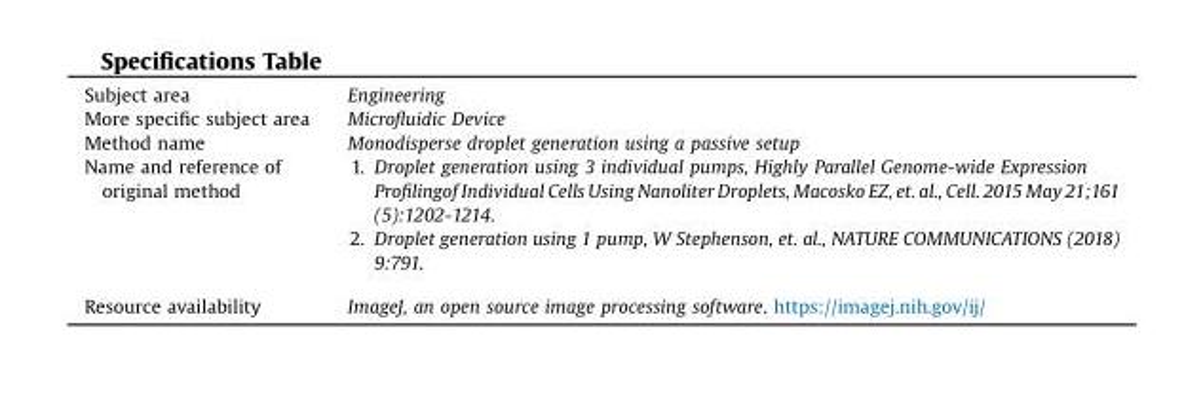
<table><tbody><tr><td>Subject area</td><td>Engineering</td></tr><tr><td>More specific subject area</td><td>Microfluidic Device</td></tr><tr><td>Method name</td><td>Monodisperse droplet generation using a passive setup</td></tr><tr><td>Name and reference of original method</td><td>1. Droplet generation using 3 individual pumps, Highly Parallel Genome-wide Expression Profilingof Individual Cells Using Nanoliter Droplets, Macosko EZ, et. al., Cell. 2015 May 21;161 (5):1202-1214. 2. Droplet generation using 1 pump, W Stephenson, et. al., NATURE COMMUNICATIONS (2018) 9:791.</td></tr><tr><td>Resource availability</td><td>ImageJ, an open source image processing software. https://imagej.nih.gov/ij/</td></tr></tbody></table>